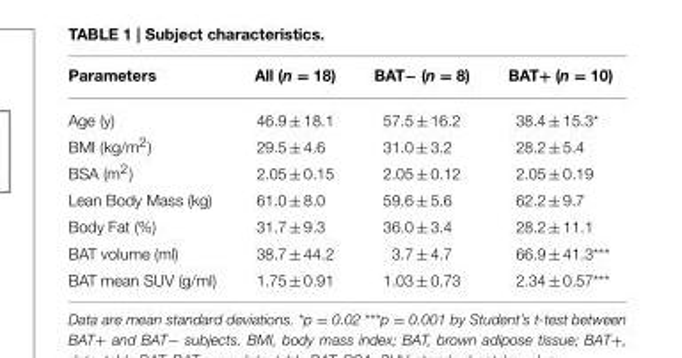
<table><thead><tr><td>Parameters</td><td>All (n = 18)</td><td>BAT− (n = 8)</td><td>BAT+ (n = 10)</td></tr></thead><tbody><tr><td>Age (y)</td><td>46.9 ± 18.1</td><td>57.5 ± 16.2</td><td>38.4 ± 15.3*</td></tr><tr><td>BMI (kg/m<sup>2</sup>)</td><td>29.5 ± 4.6</td><td>31.0 ± 3.2</td><td>28.2 ± 5.4</td></tr><tr><td>BSA (m<sup>2</sup>)</td><td>2.05 ± 0.15</td><td>2.05 ± 0.12</td><td>2.05 ± 0.19</td></tr><tr><td>Lean Body Mass (kg)</td><td>61.0 ± 8.0</td><td>59.6 ± 5.6</td><td>62.2 ± 9.7</td></tr><tr><td>Body Fat (%)</td><td>31.7 ± 9.3</td><td>36.0 ± 3.4</td><td>28.2 ± 11.1</td></tr><tr><td>BAT volume (ml)</td><td>38.7 ± 44.2</td><td>3.7 ± 4.7</td><td>66.9 ± 41.3***</td></tr><tr><td>BAT mean SUV (g/ml)</td><td>1.75 ± 0.91</td><td>1.03 ± 0.73</td><td>2.34 ± 0.57***</td></tr></tbody></table>